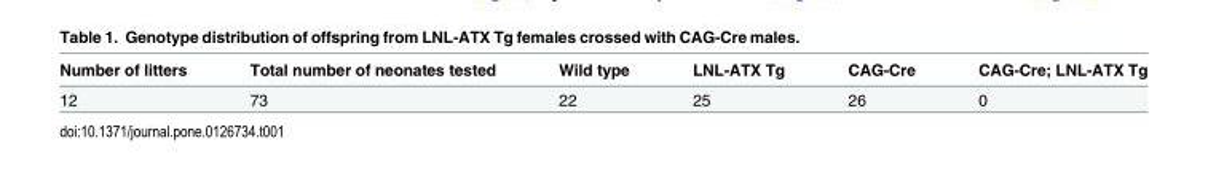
<table><thead><tr><td>Number of litters</td><td>Total number of neonates tested</td><td>Wild type</td><td>LNL-ATX Tg</td><td>CAG-Cre</td><td>CAG-Cre; LNL-ATX Tg</td></tr></thead><tbody><tr><td>12</td><td>73</td><td>22</td><td>25</td><td>26</td><td>0</td></tr></tbody></table>